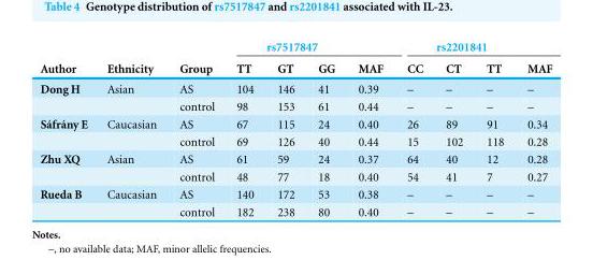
<table><thead><tr><td rowspan="2">Author</td><td rowspan="2">Ethnicity</td><td rowspan="2">Group</td><td colspan="3">rs7517847</td><td rowspan="2">MAF</td><td colspan="3">rs2201841</td><td rowspan="2">MAF</td></tr><tr><td>TT</td><td>GT</td><td>GG</td><td>CC</td><td>CT</td><td>TT</td></tr></thead><tbody><tr><td rowspan="2">Dong H</td><td>Asian</td><td>AS</td><td>104</td><td>146</td><td>41</td><td>0.39</td><td>–</td><td>–</td><td>–</td><td>–</td></tr><tr><td></td><td>control</td><td>98</td><td>153</td><td>61</td><td>0.44</td><td>–</td><td>–</td><td>–</td><td>–</td></tr><tr><td rowspan="2">S´afr´any E</td><td>Caucasian</td><td>AS</td><td>67</td><td>115</td><td>24</td><td>0.40</td><td>26</td><td>89</td><td>91</td><td>0.34</td></tr><tr><td></td><td>control</td><td>69</td><td>126</td><td>40</td><td>0.44</td><td>15</td><td>102</td><td>118</td><td>0.28</td></tr><tr><td rowspan="2">Zhu XQ</td><td>Asian</td><td>AS</td><td>61</td><td>59</td><td>24</td><td>0.37</td><td>64</td><td>40</td><td>12</td><td>0.28</td></tr><tr><td></td><td>control</td><td>48</td><td>77</td><td>18</td><td>0.40</td><td>54</td><td>41</td><td>7</td><td>0.27</td></tr><tr><td rowspan="2">Rueda B</td><td>Caucasian</td><td>AS</td><td>140</td><td>172</td><td>53</td><td>0.38</td><td>–</td><td>–</td><td>–</td><td>–</td></tr><tr><td></td><td>control</td><td>182</td><td>238</td><td>80</td><td>0.40</td><td>–</td><td>–</td><td>–</td><td>–</td></tr></tbody></table>